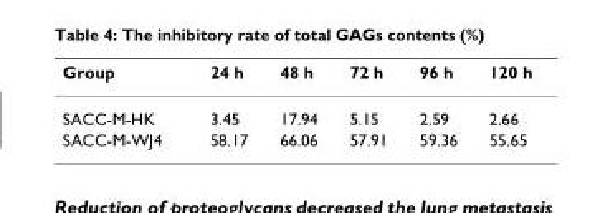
<table><thead><tr><td>Group</td><td>24 h</td><td>48 h</td><td>72 h</td><td>96 h</td><td>120 h</td></tr></thead><tbody><tr><td>SACC-M-HK</td><td>3.45</td><td>17.94</td><td>5.15</td><td>2.59</td><td>2.66</td></tr><tr><td>SACC-M-WJ4</td><td>58.17</td><td>66.06</td><td>57.91</td><td>59.36</td><td>55.65</td></tr></tbody></table>